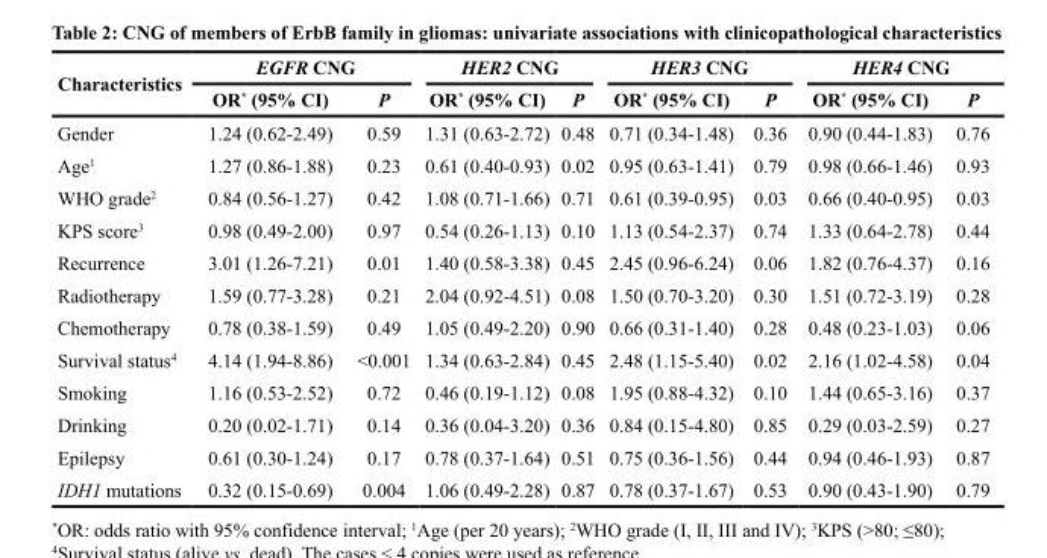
<table><thead><tr><td rowspan="2">Characteristics</td><td colspan="2">EGFR CNG</td><td colspan="2">HER2 CNG</td><td colspan="2">HER3 CNG</td><td colspan="2">HER4 CNG</td></tr><tr><td>OR* (95% CI)</td><td>P</td><td>OR* (95% CI)</td><td>P</td><td>OR* (95% CI)</td><td>P</td><td>OR* (95% CI)</td><td>P</td></tr></thead><tbody><tr><td>Gender</td><td>1.24 (0.62-2.49)</td><td>0.59</td><td>1.31 (0.63-2.72)</td><td>0.48</td><td>0.71 (0.34-1.48)</td><td>0.36</td><td>0.90 (0.44-1.83)</td><td>0.76</td></tr><tr><td>Age<sup>1</sup></td><td>1.27 (0.86-1.88)</td><td>0.23</td><td>0.61 (0.40-0.93)</td><td>0.02</td><td>0.95 (0.63-1.41)</td><td>0.79</td><td>0.98 (0.66-1.46)</td><td>0.93</td></tr><tr><td>WHO grade<sup>2</sup></td><td>0.84 (0.56-1.27)</td><td>0.42</td><td>1.08 (0.71-1.66)</td><td>0.71</td><td>0.61 (0.39-0.95)</td><td>0.03</td><td>0.66 (0.40-0.95)</td><td>0.03</td></tr><tr><td>KPS score<sup>3</sup></td><td>0.98 (0.49-2.00)</td><td>0.97</td><td>0.54 (0.26-1.13)</td><td>0.10</td><td>1.13 (0.54-2.37)</td><td>0.74</td><td>1.33 (0.64-2.78)</td><td>0.44</td></tr><tr><td>Recurrence</td><td>3.01 (1.26-7.21)</td><td>0.01</td><td>1.40 (0.58-3.38)</td><td>0.45</td><td>2.45 (0.96-6.24)</td><td>0.06</td><td>1.82 (0.76-4.37)</td><td>0.16</td></tr><tr><td>Radiotherapy</td><td>1.59 (0.77-3.28)</td><td>0.21</td><td>2.04 (0.92-4.51)</td><td>0.08</td><td>1.50 (0.70-3.20)</td><td>0.30</td><td>1.51 (0.72-3.19)</td><td>0.28</td></tr><tr><td>Chemotherapy</td><td>0.78 (0.38-1.59)</td><td>0.49</td><td>1.05 (0.49-2.20)</td><td>0.90</td><td>0.66 (0.31-1.40)</td><td>0.28</td><td>0.48 (0.23-1.03)</td><td>0.06</td></tr><tr><td>Survival status<sup>4</sup></td><td>4.14 (1.94-8.86)</td><td>&lt;0.001</td><td>1.34 (0.63-2.84)</td><td>0.45</td><td>2.48 (1.15-5.40)</td><td>0.02</td><td>2.16 (1.02-4.58)</td><td>0.04</td></tr><tr><td>Smoking</td><td>1.16 (0.53-2.52)</td><td>0.72</td><td>0.46 (0.19-1.12)</td><td>0.08</td><td>1.95 (0.88-4.32)</td><td>0.10</td><td>1.44 (0.65-3.16)</td><td>0.37</td></tr><tr><td>Drinking</td><td>0.20 (0.02-1.71)</td><td>0.14</td><td>0.36 (0.04-3.20)</td><td>0.36</td><td>0.84 (0.15-4.80)</td><td>0.85</td><td>0.29 (0.03-2.59)</td><td>0.27</td></tr><tr><td>Epilepsy</td><td>0.61 (0.30-1.24)</td><td>0.17</td><td>0.78 (0.37-1.64)</td><td>0.51</td><td>0.75 (0.36-1.56)</td><td>0.44</td><td>0.94 (0.46-1.93)</td><td>0.87</td></tr><tr><td>IDH1 mutations</td><td>0.32 (0.15-0.69)</td><td>0.004</td><td>1.06 (0.49-2.28)</td><td>0.87</td><td>0.78 (0.37-1.67)</td><td>0.53</td><td>0.90 (0.43-1.90)</td><td>0.79</td></tr></tbody></table>